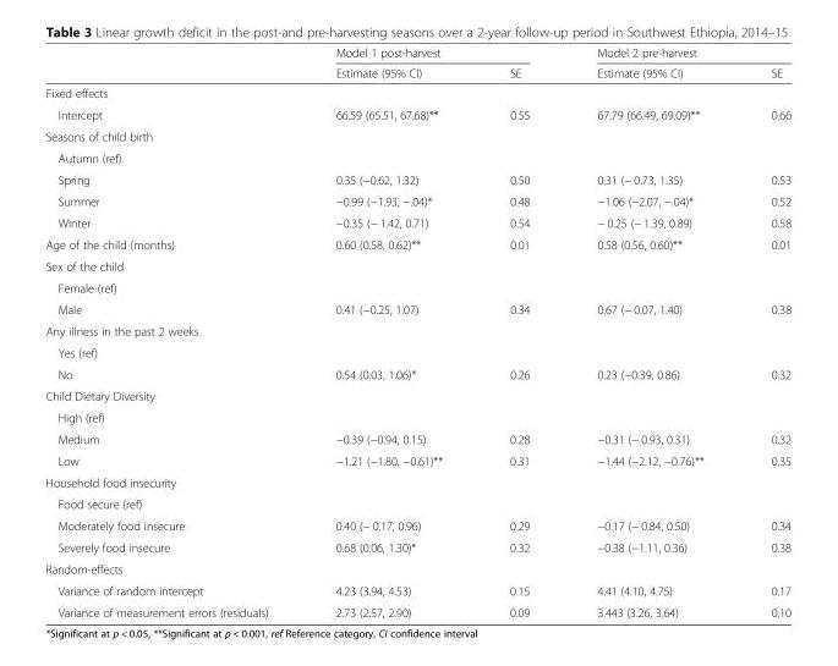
<table><thead><tr><td rowspan="2"></td><td colspan="2">Model 1 post-harvest</td><td colspan="2">Model 2 pre-harvest</td></tr><tr><td>Estimate (95% CI)</td><td>SE</td><td>Estimate (95% CI)</td><td>SE</td></tr></thead><tbody><tr><td colspan="5">Fixed effects</td></tr><tr><td>Intercept</td><td>66.59 (65.51, 67.68)**</td><td>0.55</td><td>67.79 (66.49, 69.09)**</td><td>0.66</td></tr><tr><td colspan="5">Seasons of child birth</td></tr><tr><td colspan="5">Autumn (ref)</td></tr><tr><td>Spring</td><td>0.35 (−0.62, 1.32)</td><td>0.50</td><td>0.31 (− 0.73, 1.35)</td><td>0.53</td></tr><tr><td>Summer</td><td>−0.99 (−1.93, −.04)*</td><td>0.48</td><td>−1.06 (−2.07, −.04)*</td><td>0.52</td></tr><tr><td>Winter</td><td>−0.35 (− 1.42, 0.71)</td><td>0.54</td><td>− 0.25 (− 1.39, 0.89)</td><td>0.58</td></tr><tr><td>Age of the child (months)</td><td>0.60 (0.58, 0.62)**</td><td>0.01</td><td>0.58 (0.56, 0.60)**</td><td>0.01</td></tr><tr><td colspan="5">Sex of the child</td></tr><tr><td colspan="5">Female (ref)</td></tr><tr><td>Male</td><td>0.41 (−0.25, 1.07)</td><td>0.34</td><td>0.67 (− 0.07, 1.40)</td><td>0.38</td></tr><tr><td colspan="5">Any illness in the past 2 weeks</td></tr><tr><td colspan="5">Yes (ref)</td></tr><tr><td>No</td><td>0.54 (0.03, 1.06)*</td><td>0.26</td><td>0.23 (−0.39, 0.86)</td><td>0.32</td></tr><tr><td colspan="5">Child Dietary Diversity</td></tr><tr><td colspan="5">High (ref)</td></tr><tr><td>Medium</td><td>−0.39 (−0.94, 0.15)</td><td>0.28</td><td>−0.31 (− 0.93, 0.31)</td><td>0.32</td></tr><tr><td>Low</td><td>−1.21 (−1.80, −0.61)**</td><td>0.31</td><td>−1.44 (−2.12, −0.76)**</td><td>0.35</td></tr><tr><td colspan="5">Household food insecurity</td></tr><tr><td colspan="5">Food secure (ref)</td></tr><tr><td>Moderately food insecure</td><td>0.40 (− 0.17, 0.96)</td><td>0.29</td><td>−0.17 (− 0.84, 0.50)</td><td>0.34</td></tr><tr><td>Severely food insecure</td><td>0.68 (0.06, 1.30)*</td><td>0.32</td><td>−0.38 (−1.11, 0.36)</td><td>0.38</td></tr><tr><td colspan="5">Random-effects</td></tr><tr><td>Variance of random intercept</td><td>4.23 (3.94, 4.53)</td><td>0.15</td><td>4.41 (4.10, 4.75)</td><td>0.17</td></tr><tr><td>Variance of measurement errors (residuals)</td><td>2.73 (2.57, 2.90)</td><td>0.09</td><td>3.443 (3.26, 3.64)</td><td>0.10</td></tr></tbody></table>